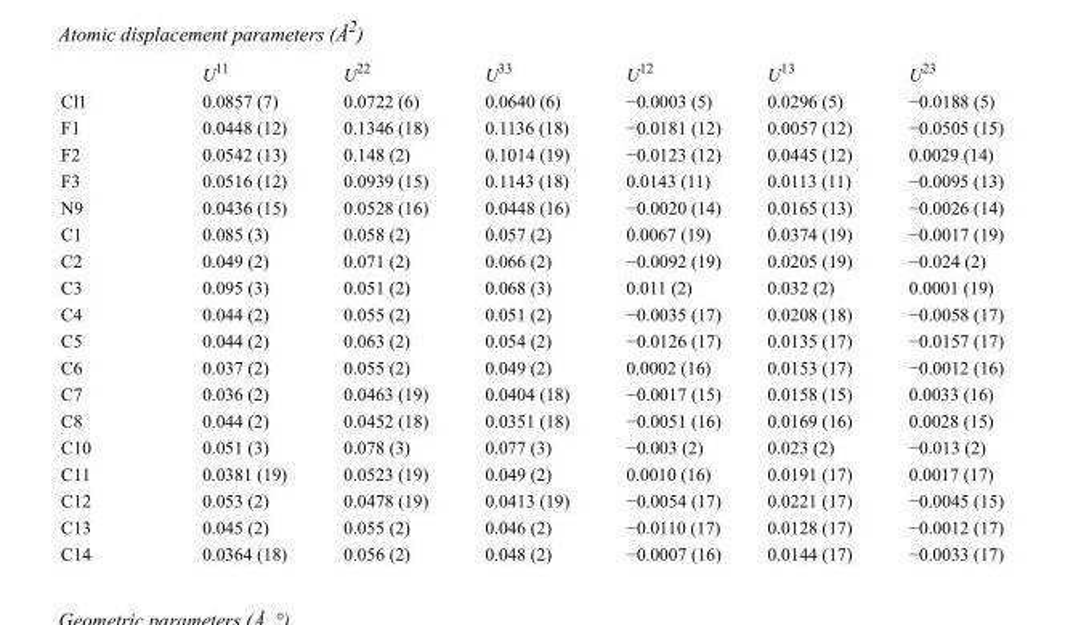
<table><thead><tr><td></td><td>U<sup>11</sup></td><td>U<sup>22</sup></td><td>U<sup>33</sup></td><td>U<sup>12</sup></td><td>U<sup>13</sup></td><td>U<sup>23</sup></td></tr></thead><tbody><tr><td>Cl1</td><td>0.0857 (7)</td><td>0.0722 (6)</td><td>0.0640 (6)</td><td>−0.0003 (5)</td><td>0.0296 (5)</td><td>−0.0188 (5)</td></tr><tr><td>F1</td><td>0.0448 (12)</td><td>0.1346 (18)</td><td>0.1136 (18)</td><td>−0.0181 (12)</td><td>0.0057 (12)</td><td>−0.0505 (15)</td></tr><tr><td>F2</td><td>0.0542 (13)</td><td>0.148 (2)</td><td>0.1014 (19)</td><td>−0.0123 (12)</td><td>0.0445 (12)</td><td>0.0029 (14)</td></tr><tr><td>F3</td><td>0.0516 (12)</td><td>0.0939 (15)</td><td>0.1143 (18)</td><td>0.0143 (11)</td><td>0.0113 (11)</td><td>−0.0095 (13)</td></tr><tr><td>N9</td><td>0.0436 (15)</td><td>0.0528 (16)</td><td>0.0448 (16)</td><td>−0.0020 (14)</td><td>0.0165 (13)</td><td>−0.0026 (14)</td></tr><tr><td>C1</td><td>0.085 (3)</td><td>0.058 (2)</td><td>0.057 (2)</td><td>0.0067 (19)</td><td>0.0374 (19)</td><td>−0.0017 (19)</td></tr><tr><td>C2</td><td>0.049 (2)</td><td>0.071 (2)</td><td>0.066 (2)</td><td>−0.0092 (19)</td><td>0.0205 (19)</td><td>−0.024 (2)</td></tr><tr><td>C3</td><td>0.095 (3)</td><td>0.051 (2)</td><td>0.068 (3)</td><td>0.011 (2)</td><td>0.032 (2)</td><td>0.0001 (19)</td></tr><tr><td>C4</td><td>0.044 (2)</td><td>0.055 (2)</td><td>0.051 (2)</td><td>−0.0035 (17)</td><td>0.0208 (18)</td><td>−0.0058 (17)</td></tr><tr><td>C5</td><td>0.044 (2)</td><td>0.063 (2)</td><td>0.054 (2)</td><td>−0.0126 (17)</td><td>0.0135 (17)</td><td>−0.0157 (17)</td></tr><tr><td>C6</td><td>0.037 (2)</td><td>0.055 (2)</td><td>0.049 (2)</td><td>0.0002 (16)</td><td>0.0153 (17)</td><td>−0.0012 (16)</td></tr><tr><td>C7</td><td>0.036 (2)</td><td>0.0463 (19)</td><td>0.0404 (18)</td><td>−0.0017 (15)</td><td>0.0158 (15)</td><td>0.0033 (16)</td></tr><tr><td>C8</td><td>0.044 (2)</td><td>0.0452 (18)</td><td>0.0351 (18)</td><td>−0.0051 (16)</td><td>0.0169 (16)</td><td>0.0028 (15)</td></tr><tr><td>C10</td><td>0.051 (3)</td><td>0.078 (3)</td><td>0.077 (3)</td><td>−0.003 (2)</td><td>0.023 (2)</td><td>−0.013 (2)</td></tr><tr><td>C11</td><td>0.0381 (19)</td><td>0.0523 (19)</td><td>0.049 (2)</td><td>0.0010 (16)</td><td>0.0191 (17)</td><td>0.0017 (17)</td></tr><tr><td>C12</td><td>0.053 (2)</td><td>0.0478 (19)</td><td>0.0413 (19)</td><td>−0.0054 (17)</td><td>0.0221 (17)</td><td>−0.0045 (15)</td></tr><tr><td>C13</td><td>0.045 (2)</td><td>0.055 (2)</td><td>0.046 (2)</td><td>−0.0110 (17)</td><td>0.0128 (17)</td><td>−0.0012 (17)</td></tr><tr><td>C14</td><td>0.0364 (18)</td><td>0.056 (2)</td><td>0.048 (2)</td><td>−0.0007 (16)</td><td>0.0144 (17)</td><td>−0.0033 (17)</td></tr></tbody></table>